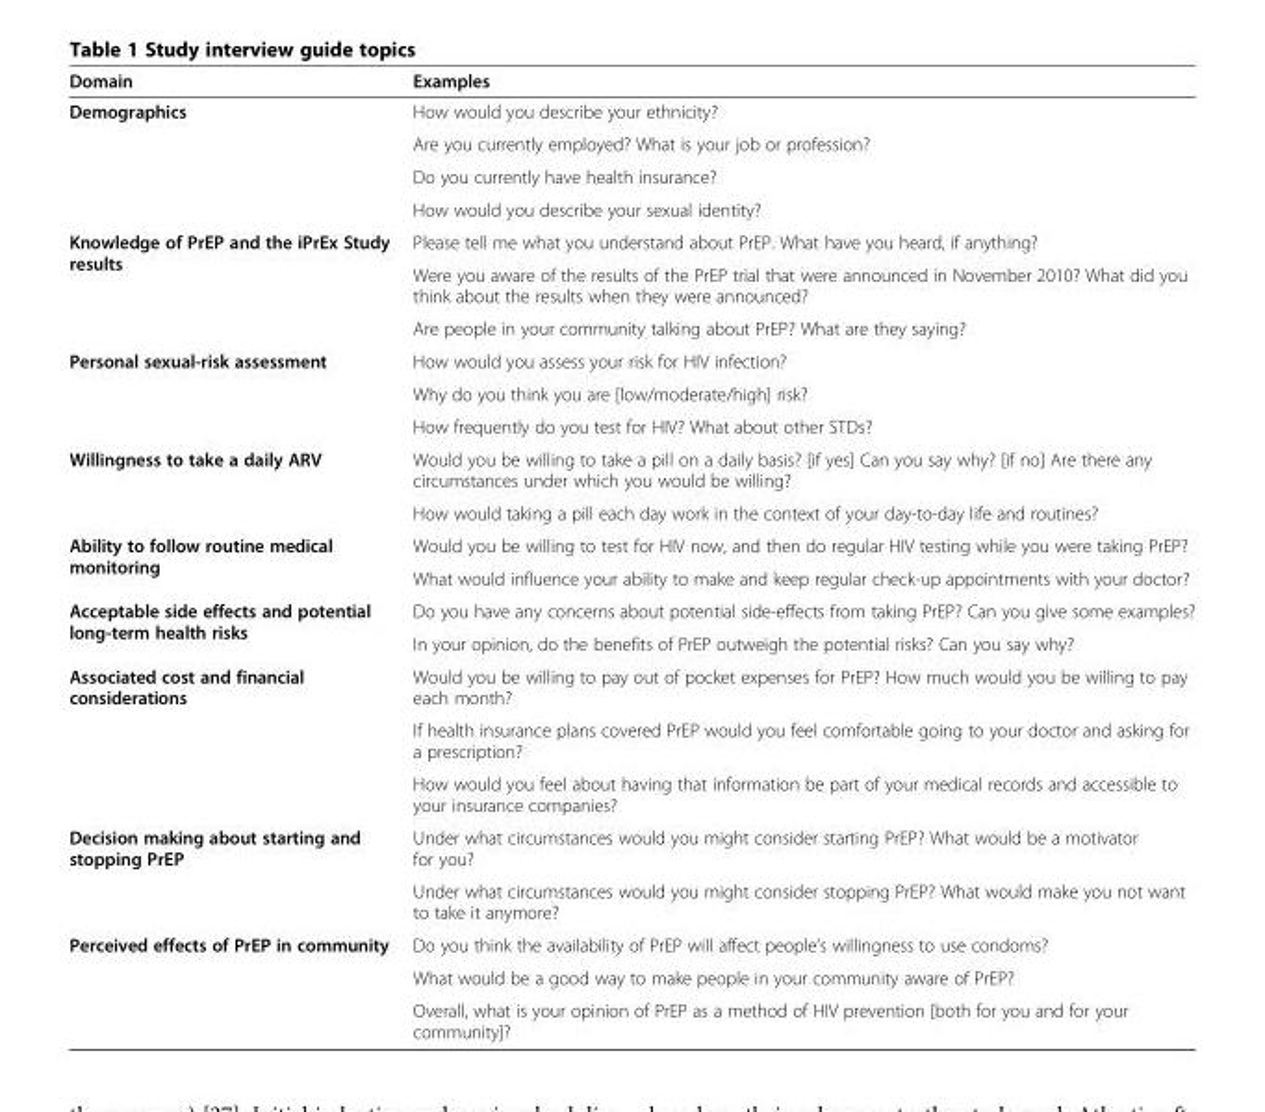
<table><thead><tr><td>Domain</td><td>Examples</td></tr></thead><tbody><tr><td rowspan="4">Demographics</td><td>How would you describe your ethnicity?</td></tr><tr><td>Are you currently employed? What is your job or profession?</td></tr><tr><td>Do you currently have health insurance?</td></tr><tr><td>How would you describe your sexual identity?</td></tr><tr><td rowspan="3">Knowledge of PrEP and the iPrEx Study results</td><td>Please tell me what you understand about PrEP. What have you heard, if anything?</td></tr><tr><td>Were you aware of the results of the PrEP trial that were announced in November 2010? What did you think about the results when they were announced?</td></tr><tr><td>Are people in your community talking about PrEP? What are they saying?</td></tr><tr><td rowspan="3">Personal sexual-risk assessment</td><td>How would you assess your risk for HIV infection?</td></tr><tr><td>Why do you think you are [low/moderate/high] risk?</td></tr><tr><td>How frequently do you test for HIV? What about other STDs?</td></tr><tr><td rowspan="2">Willingness to take a daily ARV</td><td>Would you be willing to take a pill on a daily basis? [if yes] Can you say why? [if no] Are there any circumstances under which you would be willing?</td></tr><tr><td>How would taking a pill each day work in the context of your day-to-day life and routines?</td></tr><tr><td rowspan="2">Ability to follow routine medical monitoring</td><td>Would you be willing to test for HIV now, and then do regular HIV testing while you were taking PrEP?</td></tr><tr><td>What would influence your ability to make and keep regular check-up appointments with your doctor?</td></tr><tr><td rowspan="2">Acceptable side effects and potential long-term health risks</td><td>Do you have any concerns about potential side-effects from taking PrEP? Can you give some examples?</td></tr><tr><td>In your opinion, do the benefits of PrEP outweigh the potential risks? Can you say why?</td></tr><tr><td rowspan="3">Associated cost and financial considerations</td><td>Would you be willing to pay out of pocket expenses for PrEP? How much would you be willing to pay each month?</td></tr><tr><td>If health insurance plans covered PrEP would you feel comfortable going to your doctor and asking for a prescription?</td></tr><tr><td>How would you feel about having that information be part of your medical records and accessible to your insurance companies?</td></tr><tr><td rowspan="2">Decision making about starting and stopping PrEP</td><td>Under what circumstances would you might consider starting PrEP? What would be a motivator for you?</td></tr><tr><td>Under what circumstances would you might consider stopping PrEP? What would make you not want to take it anymore?</td></tr><tr><td rowspan="3">Perceived effects of PrEP in community</td><td>Do you think the availability of PrEP will affect people’s willingness to use condoms?</td></tr><tr><td>What would be a good way to make people in your community aware of PrEP?</td></tr><tr><td>Overall, what is your opinion of PrEP as a method of HIV prevention [both for you and for your community]?</td></tr></tbody></table>